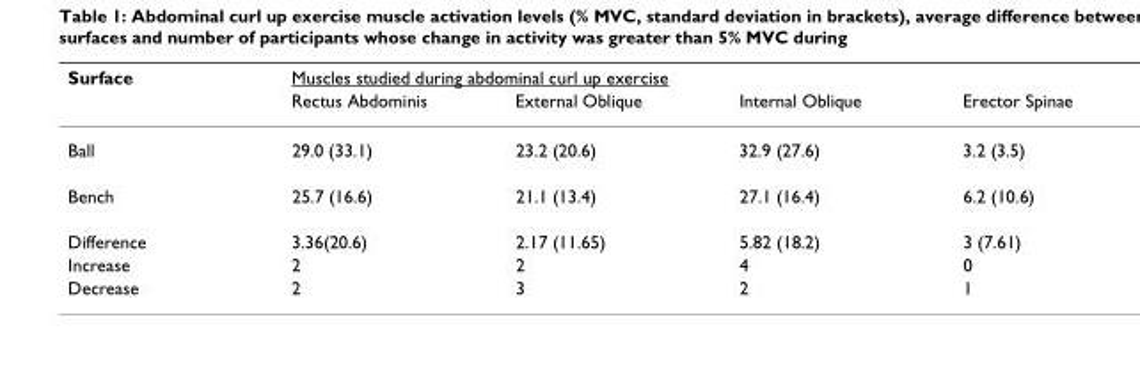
<table><thead><tr><td rowspan="2">Surface</td><td colspan="4">Muscles studied during abdominal curl up exercise</td></tr><tr><td>Rectus Abdominis</td><td>External Oblique</td><td>Internal Oblique</td><td>Erector Spinae</td></tr></thead><tbody><tr><td>Ball</td><td>29.0 (33.1)</td><td>23.2 (20.6)</td><td>32.9 (27.6)</td><td>3.2 (3.5)</td></tr><tr><td>Bench</td><td>25.7 (16.6)</td><td>21.1 (13.4)</td><td>27.1 (16.4)</td><td>6.2 (10.6)</td></tr><tr><td>Difference</td><td>3.36(20.6)</td><td>2.17 (11.65)</td><td>5.82 (18.2)</td><td>3 (7.61)</td></tr><tr><td>Increase</td><td>2</td><td>2</td><td>4</td><td>0</td></tr><tr><td>Decrease</td><td>2</td><td>3</td><td>2</td><td>1</td></tr></tbody></table>